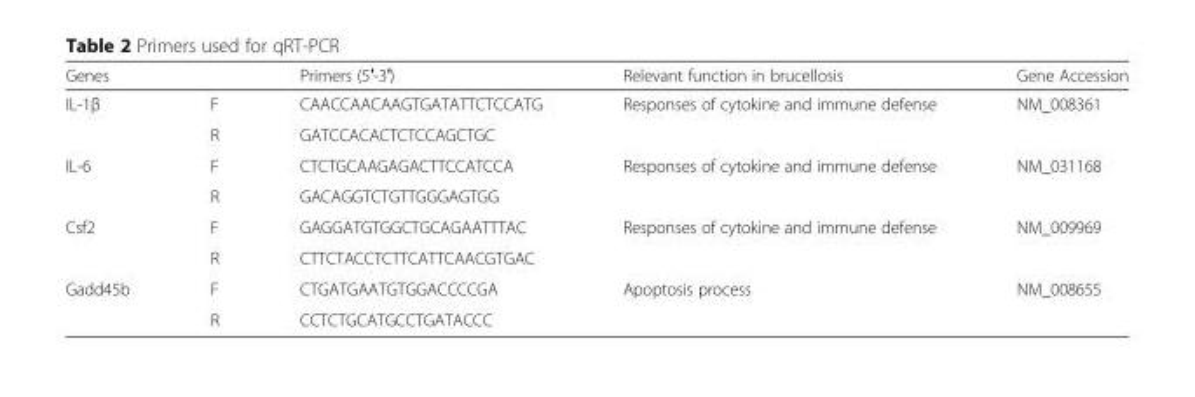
<table><thead><tr><td>Genes</td><td></td><td>Primers (5′-3′)</td><td>Relevant function in brucellosis</td><td>Gene Accession</td></tr></thead><tbody><tr><td rowspan="2">IL-1β</td><td>F</td><td>CAACCAACAAGTGATATTCTCCATG</td><td rowspan="2">Responses of cytokine and immune defense</td><td rowspan="2">NM_008361</td></tr><tr><td>R</td><td>GATCCACACTCTCCAGCTGC</td></tr><tr><td rowspan="2">IL-6</td><td>F</td><td>CTCTGCAAGAGACTTCCATCCA</td><td rowspan="2">Responses of cytokine and immune defense</td><td rowspan="2">NM_031168</td></tr><tr><td>R</td><td>GACAGGTCTGTTGGGAGTGG</td></tr><tr><td rowspan="2">Csf2</td><td>F</td><td>GAGGATGTGGCTGCAGAATTTAC</td><td rowspan="2">Responses of cytokine and immune defense</td><td rowspan="2">NM_009969</td></tr><tr><td>R</td><td>CTTCTACCTCTTCATTCAACGTGAC</td></tr><tr><td rowspan="2">Gadd45b</td><td>F</td><td>CTGATGAATGTGGACCCCGA</td><td rowspan="2">Apoptosis process</td><td rowspan="2">NM_008655</td></tr><tr><td>R</td><td>CCTCTGCATGCCTGATACCC</td></tr></tbody></table>